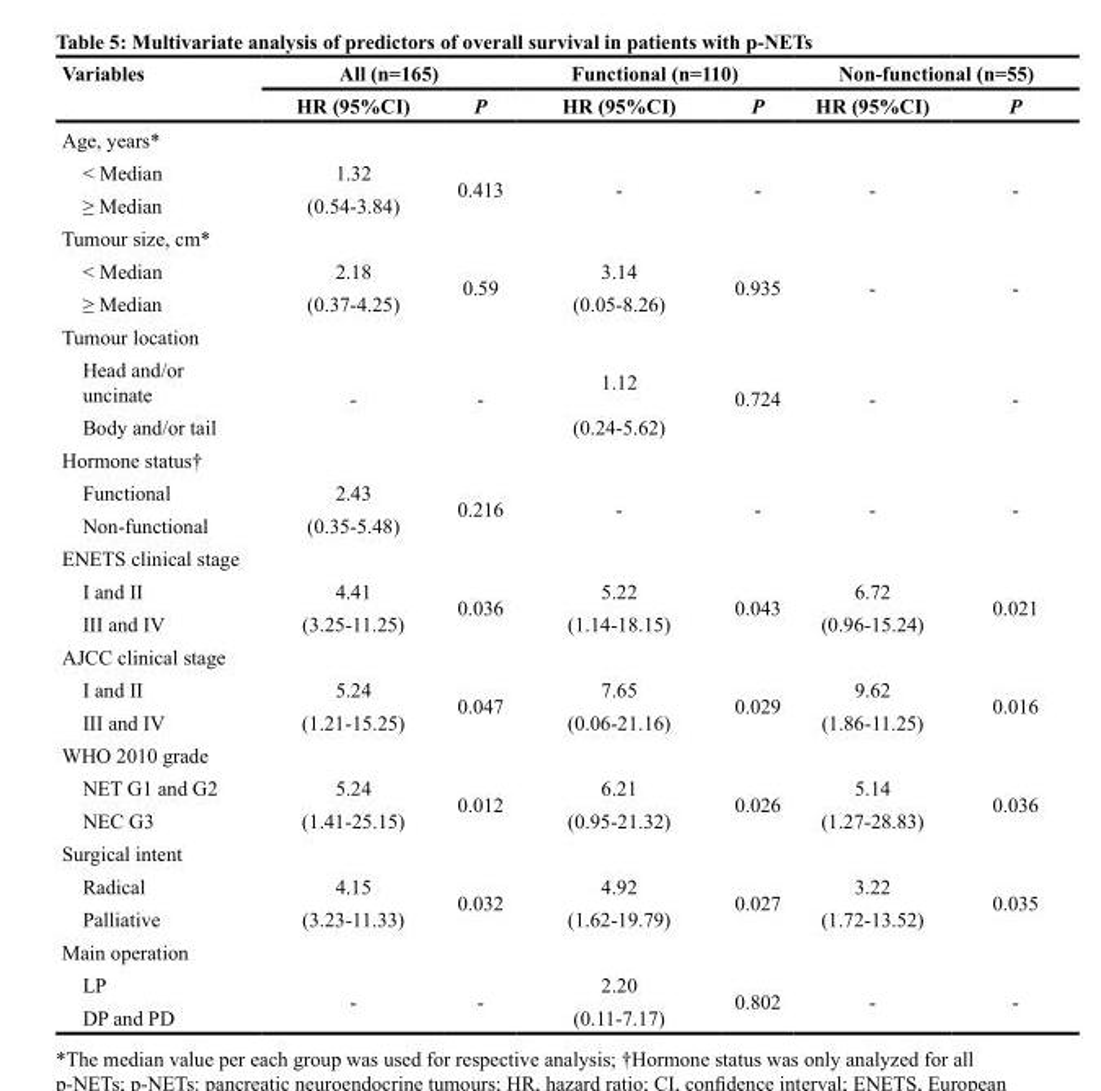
<table><thead><tr><td rowspan="2">Variables</td><td colspan="2">All (n=165)</td><td colspan="2">Functional (n=110)</td><td colspan="2">Non-functional (n=55)</td></tr><tr><td>HR (95%CI)</td><td>P</td><td>HR (95%CI)</td><td>P</td><td>HR (95%CI)</td><td>P</td></tr></thead><tbody><tr><td colspan="7">Age, years*</td></tr><tr><td>&lt; Median</td><td>1.32</td><td rowspan="2">0.413</td><td rowspan="2">-</td><td rowspan="2">-</td><td rowspan="2">-</td><td rowspan="2">-</td></tr><tr><td>≥ Median</td><td>(0.54-3.84)</td></tr><tr><td colspan="7">Tumour size, cm*</td></tr><tr><td>&lt; Median</td><td>2.18</td><td rowspan="2">0.59</td><td>3.14</td><td rowspan="2">0.935</td><td rowspan="2">-</td><td rowspan="2">-</td></tr><tr><td>≥ Median</td><td>(0.37-4.25)</td><td>(0.05-8.26)</td></tr><tr><td colspan="7">Tumour location</td></tr><tr><td>Head and/or uncinate</td><td rowspan="2">-</td><td rowspan="2">-</td><td>1.12</td><td rowspan="2">0.724</td><td rowspan="2">-</td><td rowspan="2">-</td></tr><tr><td>Body and/or tail</td><td>(0.24-5.62)</td></tr><tr><td colspan="7">Hormone status†</td></tr><tr><td>Functional</td><td>2.43</td><td rowspan="2">0.216</td><td rowspan="2">-</td><td rowspan="2">-</td><td rowspan="2">-</td><td rowspan="2">-</td></tr><tr><td>Non-functional</td><td>(0.35-5.48)</td></tr><tr><td colspan="7">ENETS clinical stage</td></tr><tr><td>I and II</td><td>4.41</td><td rowspan="2">0.036</td><td>5.22</td><td rowspan="2">0.043</td><td>6.72</td><td rowspan="2">0.021</td></tr><tr><td>III and IV</td><td>(3.25-11.25)</td><td>(1.14-18.15)</td><td>(0.96-15.24)</td></tr><tr><td colspan="7">AJCC clinical stage</td></tr><tr><td>I and II</td><td>5.24</td><td rowspan="2">0.047</td><td>7.65</td><td rowspan="2">0.029</td><td>9.62</td><td rowspan="2">0.016</td></tr><tr><td>III and IV</td><td>(1.21-15.25)</td><td>(0.06-21.16)</td><td>(1.86-11.25)</td></tr><tr><td colspan="7">WHO 2010 grade</td></tr><tr><td>NET G1 and G2</td><td>5.24</td><td rowspan="2">0.012</td><td>6.21</td><td rowspan="2">0.026</td><td>5.14</td><td rowspan="2">0.036</td></tr><tr><td>NEC G3</td><td>(1.41-25.15)</td><td>(0.95-21.32)</td><td>(1.27-28.83)</td></tr><tr><td colspan="7">Surgical intent</td></tr><tr><td>Radical</td><td>4.15</td><td rowspan="2">0.032</td><td>4.92</td><td rowspan="2">0.027</td><td>3.22</td><td rowspan="2">0.035</td></tr><tr><td>Palliative</td><td>(3.23-11.33)</td><td>(1.62-19.79)</td><td>(1.72-13.52)</td></tr><tr><td colspan="7">Main operation</td></tr><tr><td>LP</td><td rowspan="2">-</td><td rowspan="2">-</td><td>2.20</td><td rowspan="2">0.802</td><td rowspan="2">-</td><td rowspan="2">-</td></tr><tr><td>DP and PD</td><td>(0.11-7.17)</td></tr></tbody></table>